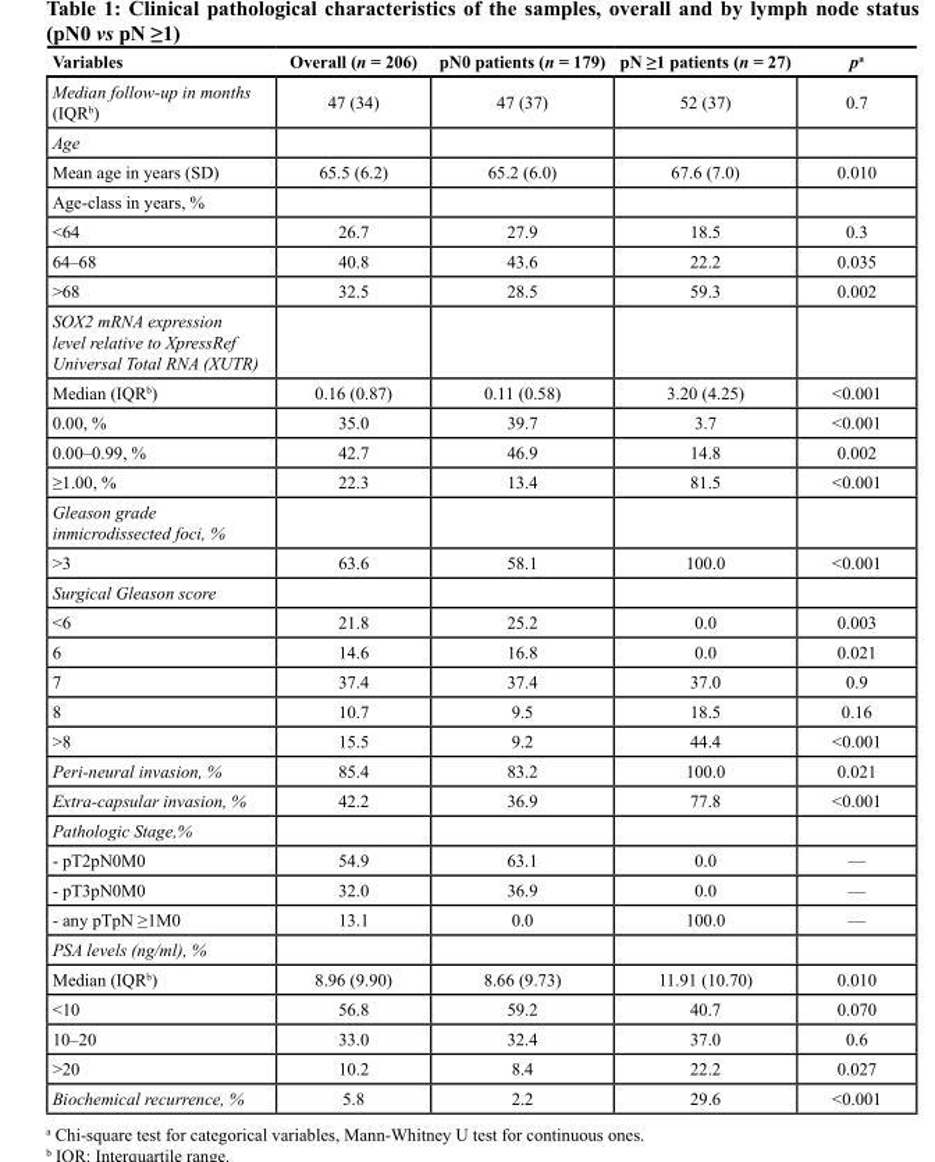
<table><thead><tr><td>Variables</td><td>Overall (n = 206)</td><td>pN0 patients (n = 179)</td><td>pN ≥1 patients (n = 27)</td><td>p<sup>a</sup></td></tr></thead><tbody><tr><td>Median follow-up in months (IQR<sup>b</sup>)</td><td>47 (34)</td><td>47 (37)</td><td>52 (37)</td><td>0.7</td></tr><tr><td colspan="5">Age</td></tr><tr><td>Mean age in years (SD)</td><td>65.5 (6.2)</td><td>65.2 (6.0)</td><td>67.6 (7.0)</td><td>0.010</td></tr><tr><td colspan="5">Age-class in years, %</td></tr><tr><td>&lt;64</td><td>26.7</td><td>27.9</td><td>18.5</td><td>0.3</td></tr><tr><td>64–68</td><td>40.8</td><td>43.6</td><td>22.2</td><td>0.035</td></tr><tr><td>&gt;68</td><td>32.5</td><td>28.5</td><td>59.3</td><td>0.002</td></tr><tr><td colspan="5">SOX2 mRNA expression level relative to XpressRef Universal Total RNA (XUTR)</td></tr><tr><td>Median (IQR<sup>b</sup>)</td><td>0.16 (0.87)</td><td>0.11 (0.58)</td><td>3.20 (4.25)</td><td>&lt;0.001</td></tr><tr><td>0.00, %</td><td>35.0</td><td>39.7</td><td>3.7</td><td>&lt;0.001</td></tr><tr><td>0.00–0.99, %</td><td>42.7</td><td>46.9</td><td>14.8</td><td>0.002</td></tr><tr><td>≥1.00, %</td><td>22.3</td><td>13.4</td><td>81.5</td><td>&lt;0.001</td></tr><tr><td colspan="5">Gleason grade inmicrodissected foci, %</td></tr><tr><td>&gt;3</td><td>63.6</td><td>58.1</td><td>100.0</td><td>&lt;0.001</td></tr><tr><td colspan="5">Surgical Gleason score</td></tr><tr><td>&lt;6</td><td>21.8</td><td>25.2</td><td>0.0</td><td>0.003</td></tr><tr><td>6</td><td>14.6</td><td>16.8</td><td>0.0</td><td>0.021</td></tr><tr><td>7</td><td>37.4</td><td>37.4</td><td>37.0</td><td>0.9</td></tr><tr><td>8</td><td>10.7</td><td>9.5</td><td>18.5</td><td>0.16</td></tr><tr><td>&gt;8</td><td>15.5</td><td>9.2</td><td>44.4</td><td>&lt;0.001</td></tr><tr><td>Peri-neural invasion, %</td><td>85.4</td><td>83.2</td><td>100.0</td><td>0.021</td></tr><tr><td>Extra-capsular invasion, %</td><td>42.2</td><td>36.9</td><td>77.8</td><td>&lt;0.001</td></tr><tr><td colspan="5">Pathologic Stage,%</td></tr><tr><td>- pT2pN0M0</td><td>54.9</td><td>63.1</td><td>0.0</td><td>—</td></tr><tr><td>- pT3pN0M0</td><td>32.0</td><td>36.9</td><td>0.0</td><td>—</td></tr><tr><td>- any pTpN ≥1M0</td><td>13.1</td><td>0.0</td><td>100.0</td><td>—</td></tr><tr><td colspan="5">PSA levels (ng/ml), %</td></tr><tr><td>Median (IQR<sup>b</sup>)</td><td>8.96 (9.90)</td><td>8.66 (9.73)</td><td>11.91 (10.70)</td><td>0.010</td></tr><tr><td>&lt;10</td><td>56.8</td><td>59.2</td><td>40.7</td><td>0.070</td></tr><tr><td>10–20</td><td>33.0</td><td>32.4</td><td>37.0</td><td>0.6</td></tr><tr><td>&gt;20</td><td>10.2</td><td>8.4</td><td>22.2</td><td>0.027</td></tr><tr><td>Biochemical recurrence, %</td><td>5.8</td><td>2.2</td><td>29.6</td><td>&lt;0.001</td></tr></tbody></table>